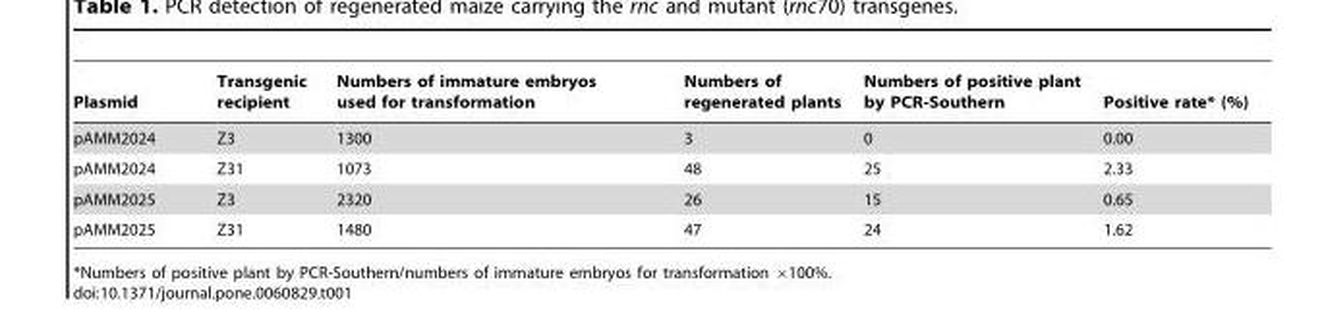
<table><thead><tr><td>Plasmid</td><td>Transgenic recipient</td><td>Numbers of immature embryos used for transformation</td><td>Numbers of regenerated plants</td><td>Numbers of positive plant by PCR-Southern</td><td>Positive rate* (%)</td></tr></thead><tbody><tr><td>pAMM2024</td><td>Z3</td><td>1300</td><td>3</td><td>0</td><td>0.00</td></tr><tr><td>pAMM2024</td><td>Z31</td><td>1073</td><td>48</td><td>25</td><td>2.33</td></tr><tr><td>pAMM2025</td><td>Z3</td><td>2320</td><td>26</td><td>15</td><td>0.65</td></tr><tr><td>pAMM2025</td><td>Z31</td><td>1480</td><td>47</td><td>24</td><td>1.62</td></tr></tbody></table>